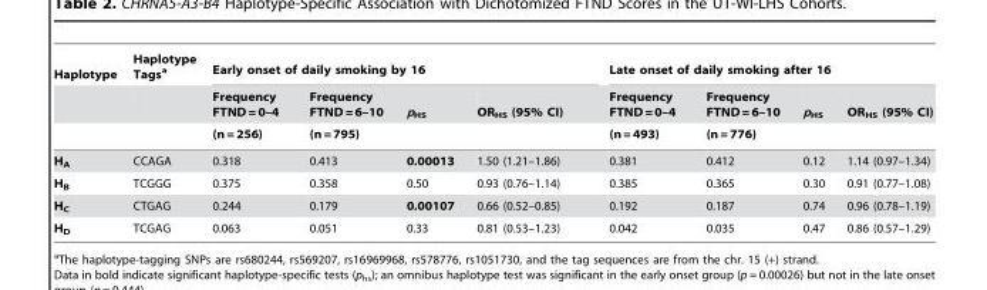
<table><thead><tr><td rowspan="3">Haplotype</td><td rowspan="3">Haplotype Tags<sup>a</sup></td><td colspan="4">Early onset of daily smoking by 16</td><td colspan="4">Late onset of daily smoking after 16</td></tr><tr><td rowspan="2">Frequency FTND = 0–4 (n = 256)</td><td rowspan="2">Frequency FTND = 6–10 (n = 795)</td><td rowspan="2">p<sub>HS</sub></td><td rowspan="2">OR<sub>HS</sub> (95% CI)</td><td rowspan="2">Frequency FTND = 0–4 (n = 493)</td><td rowspan="2">Frequency FTND = 6–10 (n = 776)</td><td rowspan="2">p<sub>HS</sub></td><td rowspan="2">OR<sub>HS</sub> (95% CI)</td></tr><tr></tr></thead><tbody><tr><td>H<sub>A</sub></td><td>CCAGA</td><td>0.318</td><td>0.413</td><td>0.00013</td><td>1.50 (1.21–1.86)</td><td>0.381</td><td>0.412</td><td>0.12</td><td>1.14 (0.97–1.34)</td></tr><tr><td>H<sub>B</sub></td><td>TCGGG</td><td>0.375</td><td>0.358</td><td>0.50</td><td>0.93 (0.76–1.14)</td><td>0.385</td><td>0.365</td><td>0.30</td><td>0.91 (0.77–1.08)</td></tr><tr><td>H<sub>C</sub></td><td>CTGAG</td><td>0.244</td><td>0.179</td><td>0.00107</td><td>0.66 (0.52–0.85)</td><td>0.192</td><td>0.187</td><td>0.74</td><td>0.96 (0.78–1.19)</td></tr><tr><td>H<sub>D</sub></td><td>TCGAG</td><td>0.063</td><td>0.051</td><td>0.33</td><td>0.81 (0.53–1.23)</td><td>0.042</td><td>0.035</td><td>0.47</td><td>0.86 (0.57–1.29)</td></tr></tbody></table>